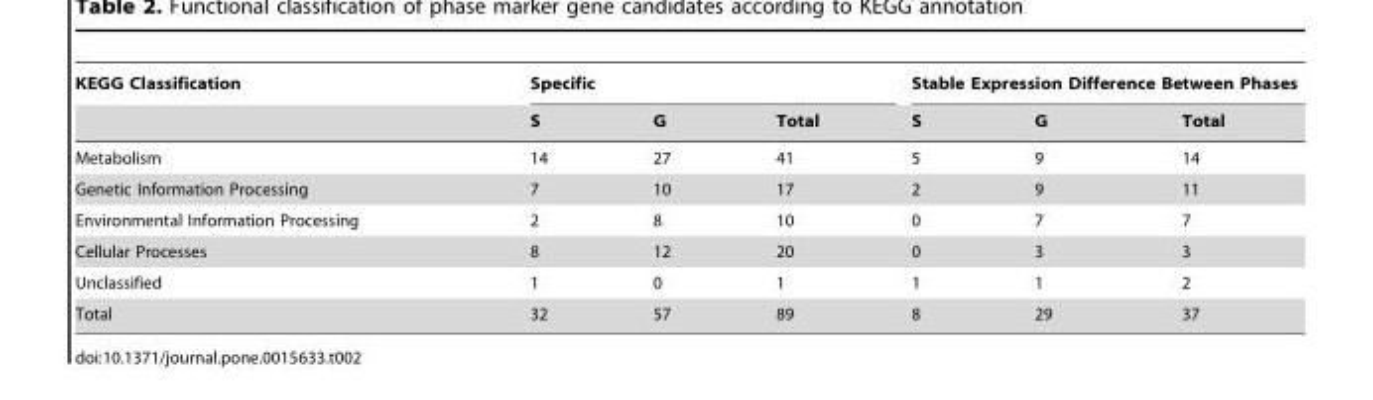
<table><thead><tr><td rowspan="2">KEGG Classification</td><td colspan="3">Specific</td><td colspan="3">Stable Expression Difference Between Phases</td></tr><tr><td>S</td><td>G</td><td>Total</td><td>S</td><td>G</td><td>Total</td></tr></thead><tbody><tr><td>Metabolism</td><td>14</td><td>27</td><td>41</td><td>5</td><td>9</td><td>14</td></tr><tr><td>Genetic Information Processing</td><td>7</td><td>10</td><td>17</td><td>2</td><td>9</td><td>11</td></tr><tr><td>Environmental Information Processing</td><td>2</td><td>8</td><td>10</td><td>0</td><td>7</td><td>7</td></tr><tr><td>Cellular Processes</td><td>8</td><td>12</td><td>20</td><td>0</td><td>3</td><td>3</td></tr><tr><td>Unclassified</td><td>1</td><td>0</td><td>1</td><td>1</td><td>1</td><td>2</td></tr><tr><td>Total</td><td>32</td><td>57</td><td>89</td><td>8</td><td>29</td><td>37</td></tr></tbody></table>